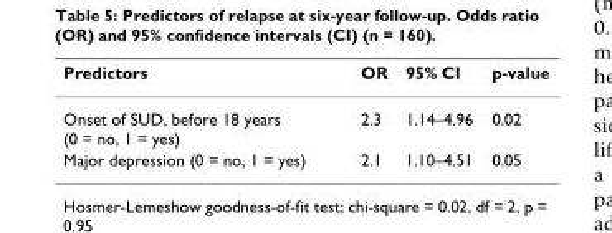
<table><thead><tr><td>Predictors</td><td>OR</td><td>95% CI</td><td>p-value</td></tr></thead><tbody><tr><td>Onset of SUD, before 18 years (0 = no, 1 = yes)</td><td>2.3</td><td>1.14–4.96</td><td>0.02</td></tr><tr><td>Major depression (0 = no, 1 = yes)</td><td>2.1</td><td>1.10–4.51</td><td>0.05</td></tr></tbody></table>